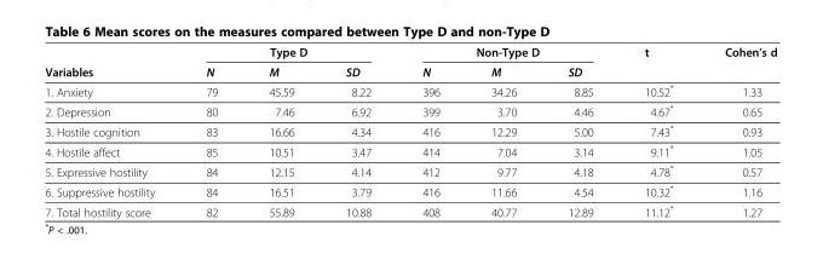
<table><thead><tr><td rowspan="2">Variables</td><td colspan="3">Type D</td><td colspan="3">Non-Type D</td><td rowspan="2">t</td><td rowspan="2">Cohen’s d</td></tr><tr><td>N</td><td>M</td><td>SD</td><td>N</td><td>M</td><td>SD</td></tr></thead><tbody><tr><td>1. Anxiety</td><td>79</td><td>45.59</td><td>8.22</td><td>396</td><td>34.26</td><td>8.85</td><td>10.52*</td><td>1.33</td></tr><tr><td>2. Depression</td><td>80</td><td>7.46</td><td>6.92</td><td>399</td><td>3.70</td><td>4.46</td><td>4.67*</td><td>0.65</td></tr><tr><td>3. Hostile cognition</td><td>83</td><td>16.66</td><td>4.34</td><td>416</td><td>12.29</td><td>5.00</td><td>7.43*</td><td>0.93</td></tr><tr><td>4. Hostile affect</td><td>85</td><td>10.51</td><td>3.47</td><td>414</td><td>7.04</td><td>3.14</td><td>9.11*</td><td>1.05</td></tr><tr><td>5. Expressive hostility</td><td>84</td><td>12.15</td><td>4.14</td><td>412</td><td>9.77</td><td>4.18</td><td>4.78*</td><td>0.57</td></tr><tr><td>6. Suppressive hostility</td><td>84</td><td>16.51</td><td>3.79</td><td>416</td><td>11.66</td><td>4.54</td><td>10.32*</td><td>1.16</td></tr><tr><td>7. Total hostility score</td><td>82</td><td>55.89</td><td>10.88</td><td>408</td><td>40.77</td><td>12.89</td><td>11.12*</td><td>1.27</td></tr></tbody></table>